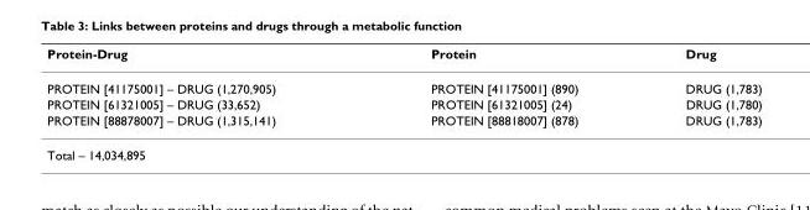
<table><thead><tr><td>Protein-Drug</td><td>Protein</td><td>Drug</td></tr></thead><tbody><tr><td>PROTEIN [41175001] – DRUG (1,270,905)</td><td>PROTEIN [41175001] (890)</td><td>DRUG (1,783)</td></tr><tr><td>PROTEIN [61321005] – DRUG (33,652)</td><td>PROTEIN [61321005] (24)</td><td>DRUG (1,780)</td></tr><tr><td>PROTEIN [88878007] – DRUG (1,315,141)</td><td>PROTEIN [88818007] (878)</td><td>DRUG (1,783)</td></tr><tr><td>Total – 14,034,895</td><td></td><td></td></tr></tbody></table>